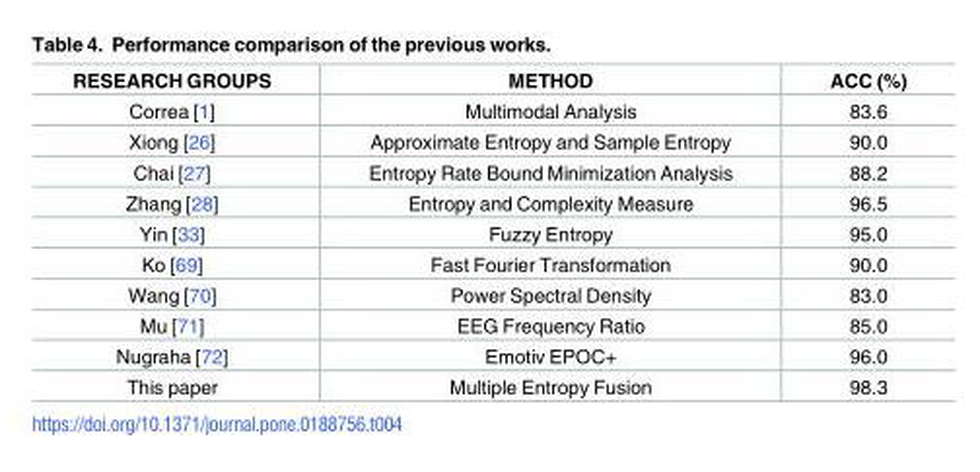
<table><thead><tr><td>RESEARCH GROUPS</td><td>METHOD</td><td>ACC (%)</td></tr></thead><tbody><tr><td>Correa [1]</td><td>Multimodal Analysis</td><td>83.6</td></tr><tr><td>Xiong [26]</td><td>Approximate Entropy and Sample Entropy</td><td>90.0</td></tr><tr><td>Chai [27]</td><td>Entropy Rate Bound Minimization Analysis</td><td>88.2</td></tr><tr><td>Zhang [28]</td><td>Entropy and Complexity Measure</td><td>96.5</td></tr><tr><td>Yin [33]</td><td>Fuzzy Entropy</td><td>95.0</td></tr><tr><td>Ko [69]</td><td>Fast Fourier Transformation</td><td>90.0</td></tr><tr><td>Wang [70]</td><td>Power Spectral Density</td><td>83.0</td></tr><tr><td>Mu [71]</td><td>EEG Frequency Ratio</td><td>85.0</td></tr><tr><td>Nugraha [72]</td><td>Emotiv EPOC+</td><td>96.0</td></tr><tr><td>This paper</td><td>Multiple Entropy Fusion</td><td>98.3</td></tr></tbody></table>